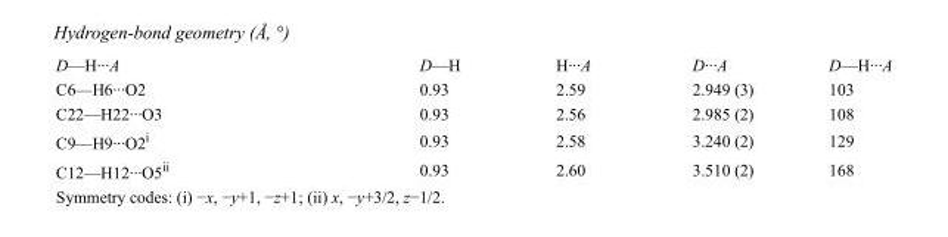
<table><tbody><tr><td>D—H···A</td><td>D—H</td><td>H···A</td><td>D···A</td><td>D—H···A</td></tr><tr><td>C6—H6···O2</td><td>0.93</td><td>2.59</td><td>2.949 (3)</td><td>103</td></tr><tr><td>C22—H22···O3</td><td>0.93</td><td>2.56</td><td>2.985 (2)</td><td>108</td></tr><tr><td>C9—H9···O2<sup>i</sup></td><td>0.93</td><td>2.58</td><td>3.240 (2)</td><td>129</td></tr><tr><td>C12—H12···O5<sup>ii</sup></td><td>0.93</td><td>2.60</td><td>3.510 (2)</td><td>168</td></tr></tbody></table>